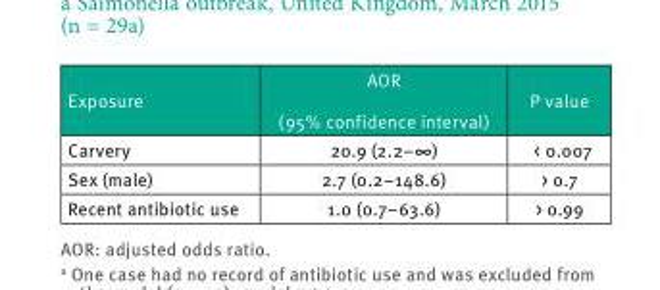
<table><thead><tr><td>Exposure</td><td>AOR (95% confidence interval)</td><td>P value</td></tr></thead><tbody><tr><td>Carvery</td><td>20.9 (2.2–∞)</td><td>&lt; 0.007</td></tr><tr><td>Sex (male)</td><td>2.7 (0.2–148.6)</td><td>&gt; 0.7</td></tr><tr><td>Recent antibiotic use</td><td>1.0 (0.7–63.6)</td><td>&gt; 0.99</td></tr></tbody></table>